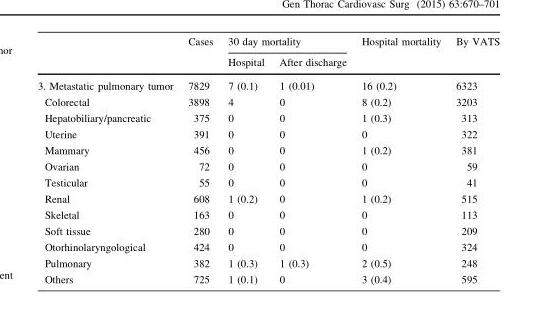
<table><thead><tr><td rowspan="2"></td><td rowspan="2">Cases</td><td colspan="2">30 day mortality</td><td rowspan="2">Hospital mortality</td><td rowspan="2">By VATS</td></tr><tr><td>Hospital</td><td>After discharge</td></tr></thead><tbody><tr><td>3. Metastatic pulmonary tumor</td><td>7829</td><td>7 (0.1)</td><td>1 (0.01)</td><td>16 (0.2)</td><td>6323</td></tr><tr><td>Colorectal</td><td>3898</td><td>4</td><td>0</td><td>8 (0.2)</td><td>3203</td></tr><tr><td>Hepatobiliary/pancreatic</td><td>375</td><td>0</td><td>0</td><td>1 (0.3)</td><td>313</td></tr><tr><td>Uterine</td><td>391</td><td>0</td><td>0</td><td>0</td><td>322</td></tr><tr><td>Mammary</td><td>456</td><td>0</td><td>0</td><td>1 (0.2)</td><td>381</td></tr><tr><td>Ovarian</td><td>72</td><td>0</td><td>0</td><td>0</td><td>59</td></tr><tr><td>Testicular</td><td>55</td><td>0</td><td>0</td><td>0</td><td>41</td></tr><tr><td>Renal</td><td>608</td><td>1 (0.2)</td><td>0</td><td>1 (0.2)</td><td>515</td></tr><tr><td>Skeletal</td><td>163</td><td>0</td><td>0</td><td>0</td><td>113</td></tr><tr><td>Soft tissue</td><td>280</td><td>0</td><td>0</td><td>0</td><td>209</td></tr><tr><td>Otorhinolaryngological</td><td>424</td><td>0</td><td>0</td><td>0</td><td>324</td></tr><tr><td>Pulmonary</td><td>382</td><td>1 (0.3)</td><td>1 (0.3)</td><td>2 (0.5)</td><td>248</td></tr><tr><td>Others</td><td>725</td><td>1 (0.1)</td><td>0</td><td>3 (0.4)</td><td>595</td></tr></tbody></table>